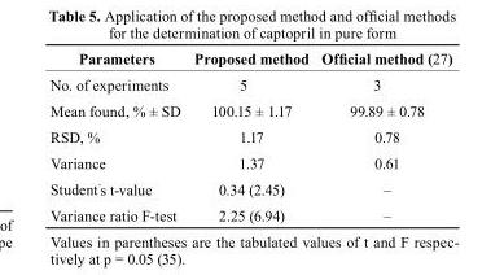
<table><thead><tr><td>Parameters</td><td>Proposed method</td><td>Official method (27)</td></tr></thead><tbody><tr><td>No. of experiments</td><td>5</td><td>3</td></tr><tr><td>Mean found, % ± SD</td><td>100.15 ± 1.17</td><td>99.89 ± 0.78</td></tr><tr><td>RSD, %</td><td>1.17</td><td>0.78</td></tr><tr><td>Variance</td><td>1.37</td><td>0.61</td></tr><tr><td>Student’s t-value</td><td>0.34 (2.45)</td><td>–</td></tr><tr><td>Variance ratio F-test</td><td>2.25 (6.94)</td><td>–</td></tr></tbody></table>